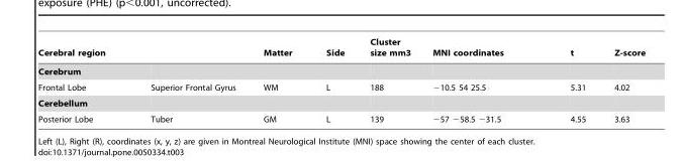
<table><thead><tr><td>Cerebral region</td><td></td><td>Matter</td><td>Side</td><td>Cluster size mm3</td><td>MNI coordinates</td><td>t</td><td>Z-score</td></tr></thead><tbody><tr><td colspan="8">Cerebrum</td></tr><tr><td>Frontal Lobe</td><td>Superior Frontal Gyrus</td><td>WM</td><td>L</td><td>188</td><td>−10.5 54 25.5</td><td>5.31</td><td>4.02</td></tr><tr><td colspan="8">Cerebellum</td></tr><tr><td>Posterior Lobe</td><td>Tuber</td><td>GM</td><td>L</td><td>139</td><td>−57 −58.5 −31.5</td><td>4.55</td><td>3.63</td></tr></tbody></table>